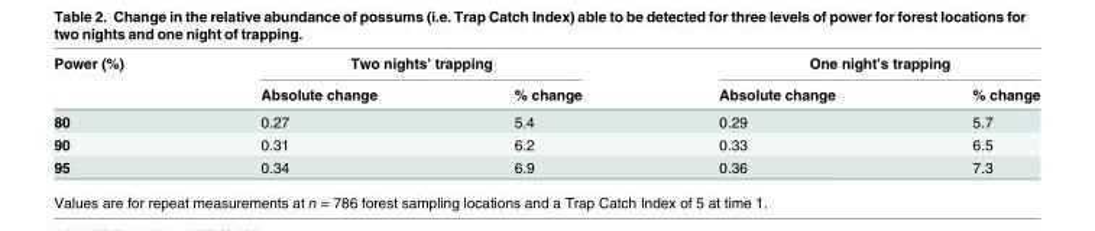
<table><thead><tr><td rowspan="2">Power (%)</td><td colspan="2">Two nights’ trapping</td><td colspan="2">One night’s trapping</td></tr><tr><td>Absolute change</td><td>% change</td><td>Absolute change</td><td>% change</td></tr></thead><tbody><tr><td>80</td><td>0.27</td><td>5.4</td><td>0.29</td><td>5.7</td></tr><tr><td>90</td><td>0.31</td><td>6.2</td><td>0.33</td><td>6.5</td></tr><tr><td>95</td><td>0.34</td><td>6.9</td><td>0.36</td><td>7.3</td></tr></tbody></table>